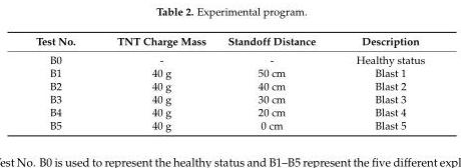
<table><thead><tr><td>Test No.</td><td>TNT Charge Mass</td><td>Standoff Distance</td><td>Description</td></tr></thead><tbody><tr><td>B0</td><td>-</td><td>-</td><td>Healthy status</td></tr><tr><td>B1</td><td>40 g</td><td>50 cm</td><td>Blast 1</td></tr><tr><td>B2</td><td>40 g</td><td>40 cm</td><td>Blast 2</td></tr><tr><td>B3</td><td>40 g</td><td>30 cm</td><td>Blast 3</td></tr><tr><td>B4</td><td>40 g</td><td>20 cm</td><td>Blast 4</td></tr><tr><td>B5</td><td>40 g</td><td>0 cm</td><td>Blast 5</td></tr></tbody></table>